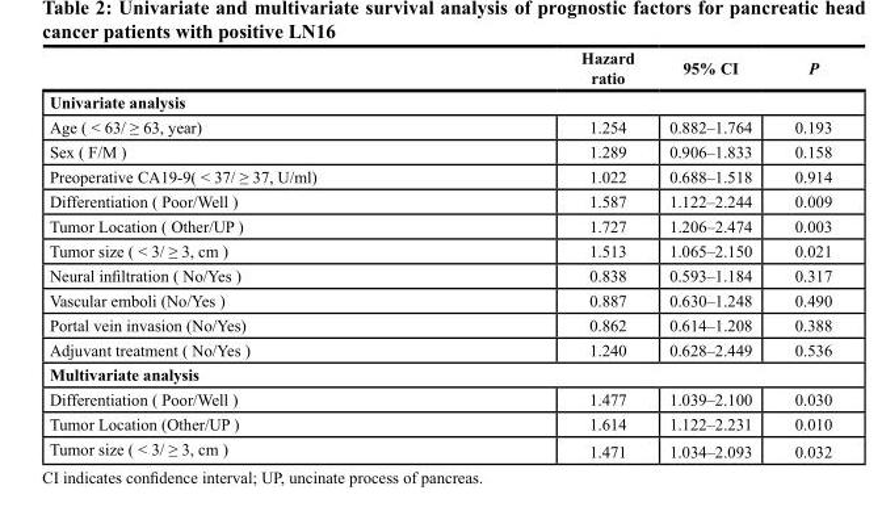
<table><thead><tr><td></td><td>Hazard ratio</td><td>95% CI</td><td>P</td></tr></thead><tbody><tr><td colspan="4">Univariate analysis</td></tr><tr><td>Age ( &lt; 63/ ≥ 63, year)</td><td>1.254</td><td>0.882–1.764</td><td>0.193</td></tr><tr><td>Sex ( F/M )</td><td>1.289</td><td>0.906–1.833</td><td>0.158</td></tr><tr><td>Preoperative CA19-9( &lt; 37/ ≥ 37, U/ml)</td><td>1.022</td><td>0.688–1.518</td><td>0.914</td></tr><tr><td>Differentiation ( Poor/Well )</td><td>1.587</td><td>1.122–2.244</td><td>0.009</td></tr><tr><td>Tumor Location ( Other/UP )</td><td>1.727</td><td>1.206–2.474</td><td>0.003</td></tr><tr><td>Tumor size ( &lt; 3/ ≥ 3, cm )</td><td>1.513</td><td>1.065–2.150</td><td>0.021</td></tr><tr><td>Neural infiltration ( No/Yes )</td><td>0.838</td><td>0.593–1.184</td><td>0.317</td></tr><tr><td>Vascular emboli (No/Yes )</td><td>0.887</td><td>0.630–1.248</td><td>0.490</td></tr><tr><td>Portal vein invasion (No/Yes)</td><td>0.862</td><td>0.614–1.208</td><td>0.388</td></tr><tr><td>Adjuvant treatment ( No/Yes )</td><td>1.240</td><td>0.628–2.449</td><td>0.536</td></tr><tr><td colspan="4">Multivariate analysis</td></tr><tr><td>Differentiation ( Poor/Well )</td><td>1.477</td><td>1.039–2.100</td><td>0.030</td></tr><tr><td>Tumor Location (Other/UP )</td><td>1.614</td><td>1.122–2.231</td><td>0.010</td></tr><tr><td>Tumor size ( &lt; 3/ ≥ 3, cm )</td><td>1.471</td><td>1.034–2.093</td><td>0.032</td></tr></tbody></table>